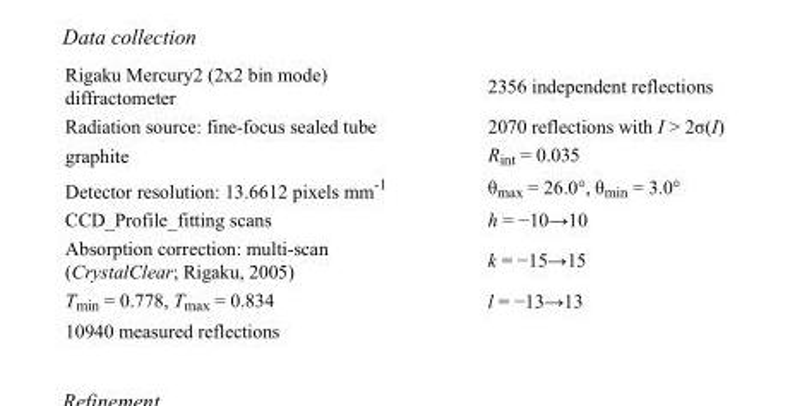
<table><tbody><tr><td>Rigaku Mercury2 (2x2 bin mode) diffractometer</td><td>2356 independent reflections</td></tr><tr><td>Radiation source: fine-focus sealed tube</td><td>2070 reflections with I &gt; 2σ(I)</td></tr><tr><td>graphite</td><td>R<sub>int</sub> = 0.035</td></tr><tr><td>Detector resolution: 13.6612 pixels mm<sup>-1</sup></td><td>θ<sub>max</sub> = 26.0°, θ<sub>min</sub> = 3.0°</td></tr><tr><td>CCD_Profile_fitting scans</td><td>h = −10→10</td></tr><tr><td>Absorption correction: multi-scan (CrystalClear; Rigaku, 2005)</td><td>k = −15→15</td></tr><tr><td>T<sub>min</sub> = 0.778, T<sub>max</sub> = 0.834</td><td>l = −13→13</td></tr><tr><td>10940 measured reflections</td><td></td></tr></tbody></table>